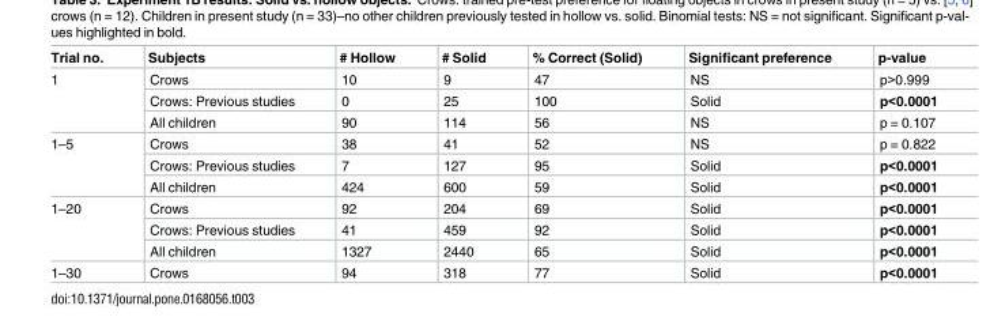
<table><thead><tr><td>Trial no.</td><td>Subjects</td><td># Hollow</td><td># Solid</td><td>% Correct (Solid)</td><td>Significant preference</td><td>p-value</td></tr></thead><tbody><tr><td rowspan="3">1</td><td>Crows</td><td>10</td><td>9</td><td>47</td><td>NS</td><td>p&gt;0.999</td></tr><tr><td>Crows: Previous studies</td><td>0</td><td>25</td><td>100</td><td>Solid</td><td>p&lt;0.0001</td></tr><tr><td>All children</td><td>90</td><td>114</td><td>56</td><td>NS</td><td>p = 0.107</td></tr><tr><td rowspan="3">1–5</td><td>Crows</td><td>38</td><td>41</td><td>52</td><td>NS</td><td>p = 0.822</td></tr><tr><td>Crows: Previous studies</td><td>7</td><td>127</td><td>95</td><td>Solid</td><td>p&lt;0.0001</td></tr><tr><td>All children</td><td>424</td><td>600</td><td>59</td><td>Solid</td><td>p&lt;0.0001</td></tr><tr><td rowspan="3">1–20</td><td>Crows</td><td>92</td><td>204</td><td>69</td><td>Solid</td><td>p&lt;0.0001</td></tr><tr><td>Crows: Previous studies</td><td>41</td><td>459</td><td>92</td><td>Solid</td><td>p&lt;0.0001</td></tr><tr><td>All children</td><td>1327</td><td>2440</td><td>65</td><td>Solid</td><td>p&lt;0.0001</td></tr><tr><td>1–30</td><td>Crows</td><td>94</td><td>318</td><td>77</td><td>Solid</td><td>p&lt;0.0001</td></tr></tbody></table>